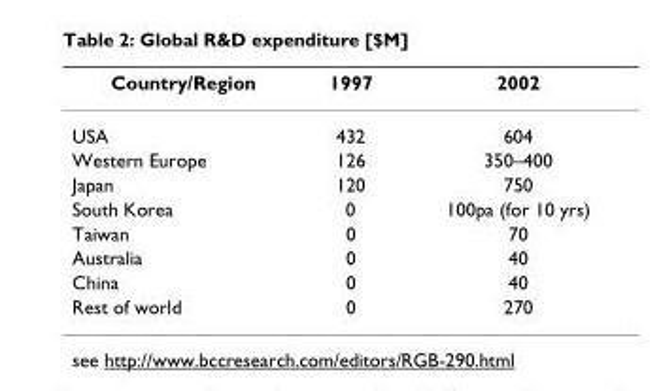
<table><thead><tr><td>Country/Region</td><td>1997</td><td>2002</td></tr></thead><tbody><tr><td>USA</td><td>432</td><td>604</td></tr><tr><td>Western Europe</td><td>126</td><td>350–400</td></tr><tr><td>Japan</td><td>120</td><td>750</td></tr><tr><td>South Korea</td><td>0</td><td>100pa (for 10 yrs)</td></tr><tr><td>Taiwan</td><td>0</td><td>70</td></tr><tr><td>Australia</td><td>0</td><td>40</td></tr><tr><td>China</td><td>0</td><td>40</td></tr><tr><td>Rest of world</td><td>0</td><td>270</td></tr></tbody></table>